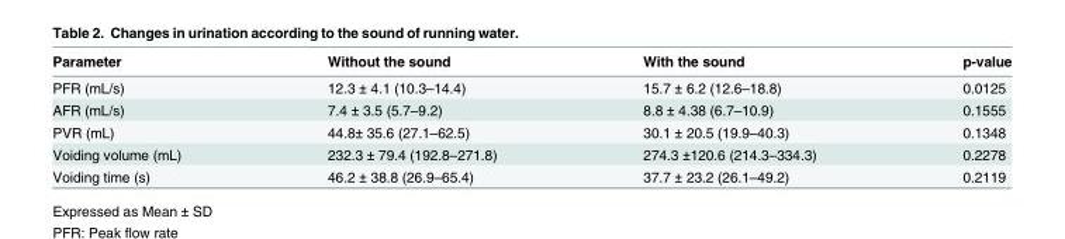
<table><thead><tr><td>Parameter</td><td>Without the sound</td><td>With the sound</td><td>p-value</td></tr></thead><tbody><tr><td>PFR (mL/s)</td><td>12.3 ± 4.1 (10.3–14.4)</td><td>15.7 ± 6.2 (12.6–18.8)</td><td>0.0125</td></tr><tr><td>AFR (mL/s)</td><td>7.4 ± 3.5 (5.7–9.2)</td><td>8.8 ± 4.38 (6.7–10.9)</td><td>0.1555</td></tr><tr><td>PVR (mL)</td><td>44.8± 35.6 (27.1–62.5)</td><td>30.1 ± 20.5 (19.9–40.3)</td><td>0.1348</td></tr><tr><td>Voiding volume (mL)</td><td>232.3 ± 79.4 (192.8–271.8)</td><td>274.3 ±120.6 (214.3–334.3)</td><td>0.2278</td></tr><tr><td>Voiding time (s)</td><td>46.2 ± 38.8 (26.9–65.4)</td><td>37.7 ± 23.2 (26.1–49.2)</td><td>0.2119</td></tr></tbody></table>